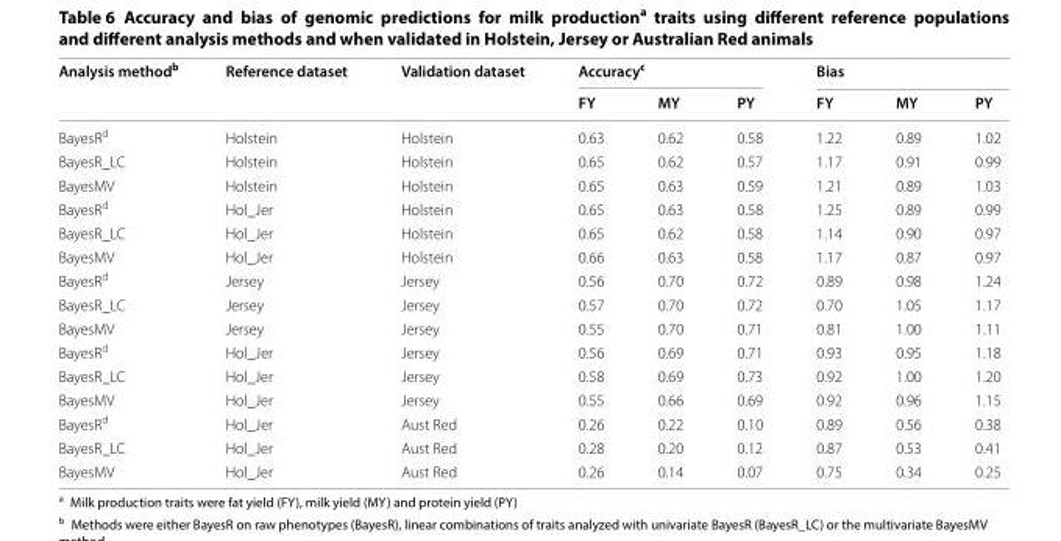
<table><thead><tr><td rowspan="2">Analysis method<sup>b</sup></td><td rowspan="2">Reference dataset</td><td rowspan="2">Validation dataset</td><td colspan="3">Accuracy<sup>c</sup></td><td colspan="3">Bias</td></tr><tr><td>FY</td><td>MY</td><td>PY</td><td>FY</td><td>MY</td><td>PY</td></tr></thead><tbody><tr><td>BayesR<sup>d</sup></td><td>Holstein</td><td>Holstein</td><td>0.63</td><td>0.62</td><td>0.58</td><td>1.22</td><td>0.89</td><td>1.02</td></tr><tr><td>BayesR_LC</td><td>Holstein</td><td>Holstein</td><td>0.65</td><td>0.62</td><td>0.57</td><td>1.17</td><td>0.91</td><td>0.99</td></tr><tr><td>BayesMV</td><td>Holstein</td><td>Holstein</td><td>0.65</td><td>0.63</td><td>0.59</td><td>1.21</td><td>0.89</td><td>1.03</td></tr><tr><td>BayesR<sup>d</sup></td><td>Hol_Jer</td><td>Holstein</td><td>0.65</td><td>0.63</td><td>0.58</td><td>1.25</td><td>0.89</td><td>0.99</td></tr><tr><td>BayesR_LC</td><td>Hol_Jer</td><td>Holstein</td><td>0.65</td><td>0.62</td><td>0.58</td><td>1.14</td><td>0.90</td><td>0.97</td></tr><tr><td>BayesMV</td><td>Hol_Jer</td><td>Holstein</td><td>0.66</td><td>0.63</td><td>0.58</td><td>1.17</td><td>0.87</td><td>0.97</td></tr><tr><td>BayesR<sup>d</sup></td><td>Jersey</td><td>Jersey</td><td>0.56</td><td>0.70</td><td>0.72</td><td>0.89</td><td>0.98</td><td>1.24</td></tr><tr><td>BayesR_LC</td><td>Jersey</td><td>Jersey</td><td>0.57</td><td>0.70</td><td>0.72</td><td>0.70</td><td>1.05</td><td>1.17</td></tr><tr><td>BayesMV</td><td>Jersey</td><td>Jersey</td><td>0.55</td><td>0.70</td><td>0.71</td><td>0.81</td><td>1.00</td><td>1.11</td></tr><tr><td>BayesR<sup>d</sup></td><td>Hol_Jer</td><td>Jersey</td><td>0.56</td><td>0.69</td><td>0.71</td><td>0.93</td><td>0.95</td><td>1.18</td></tr><tr><td>BayesR_LC</td><td>Hol_Jer</td><td>Jersey</td><td>0.58</td><td>0.69</td><td>0.73</td><td>0.92</td><td>1.00</td><td>1.20</td></tr><tr><td>BayesMV</td><td>Hol_Jer</td><td>Jersey</td><td>0.55</td><td>0.66</td><td>0.69</td><td>0.92</td><td>0.96</td><td>1.15</td></tr><tr><td>BayesR<sup>d</sup></td><td>Hol_Jer</td><td>Aust Red</td><td>0.26</td><td>0.22</td><td>0.10</td><td>0.89</td><td>0.56</td><td>0.38</td></tr><tr><td>BayesR_LC</td><td>Hol_Jer</td><td>Aust Red</td><td>0.28</td><td>0.20</td><td>0.12</td><td>0.87</td><td>0.53</td><td>0.41</td></tr><tr><td>BayesMV</td><td>Hol_Jer</td><td>Aust Red</td><td>0.26</td><td>0.14</td><td>0.07</td><td>0.75</td><td>0.34</td><td>0.25</td></tr></tbody></table>